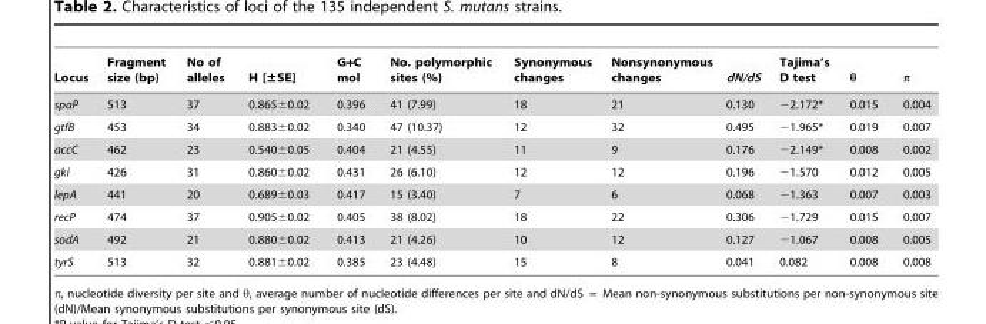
<table><thead><tr><td>Locus</td><td>Fragment size (bp)</td><td>No of alleles</td><td>H [±SE]</td><td>G+C mol</td><td>No. polymorphic sites (%)</td><td>Synonymous changes</td><td>Nonsynonymous changes</td><td>dN/dS</td><td>Tajima’s D test</td><td>θ</td><td>π</td></tr></thead><tbody><tr><td>spaP</td><td>513</td><td>37</td><td>0.865±0.02</td><td>0.396</td><td>41 (7.99)</td><td>18</td><td>21</td><td>0.130</td><td>−2.172*</td><td>0.015</td><td>0.004</td></tr><tr><td>gtfB</td><td>453</td><td>34</td><td>0.883±0.02</td><td>0.340</td><td>47 (10.37)</td><td>12</td><td>32</td><td>0.495</td><td>−1.965*</td><td>0.019</td><td>0.007</td></tr><tr><td>accC</td><td>462</td><td>23</td><td>0.540±0.05</td><td>0.404</td><td>21 (4.55)</td><td>11</td><td>9</td><td>0.176</td><td>−2.149*</td><td>0.008</td><td>0.002</td></tr><tr><td>gki</td><td>426</td><td>31</td><td>0.860±0.02</td><td>0.431</td><td>26 (6.10)</td><td>12</td><td>12</td><td>0.196</td><td>−1.570</td><td>0.012</td><td>0.005</td></tr><tr><td>lepA</td><td>441</td><td>20</td><td>0.689±0.03</td><td>0.417</td><td>15 (3.40)</td><td>7</td><td>6</td><td>0.068</td><td>−1.363</td><td>0.007</td><td>0.003</td></tr><tr><td>recP</td><td>474</td><td>37</td><td>0.905±0.02</td><td>0.405</td><td>38 (8.02)</td><td>18</td><td>22</td><td>0.306</td><td>−1.729</td><td>0.015</td><td>0.007</td></tr><tr><td>sodA</td><td>492</td><td>21</td><td>0.880±0.02</td><td>0.413</td><td>21 (4.26)</td><td>10</td><td>12</td><td>0.127</td><td>−1.067</td><td>0.008</td><td>0.005</td></tr><tr><td>tyrS</td><td>513</td><td>32</td><td>0.881±0.02</td><td>0.385</td><td>23 (4.48)</td><td>15</td><td>8</td><td>0.041</td><td>0.082</td><td>0.008</td><td>0.008</td></tr></tbody></table>